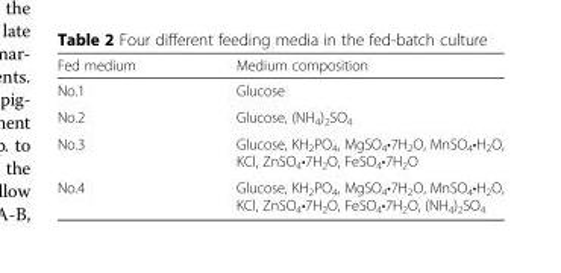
<table><thead><tr><td>Fed medium</td><td>Medium composition</td></tr></thead><tbody><tr><td>No.1</td><td>Glucose</td></tr><tr><td>No.2</td><td>Glucose, (NH<sub>4</sub>)<sub>2</sub>SO<sub>4</sub></td></tr><tr><td>No.3</td><td>Glucose, KH<sub>2</sub>PO<sub>4</sub>, MgSO<sub>4</sub>•7H<sub>2</sub>O, MnSO<sub>4</sub>•H<sub>2</sub>O, KCl, ZnSO<sub>4</sub>•7H<sub>2</sub>O, FeSO<sub>4</sub>•7H<sub>2</sub>O</td></tr><tr><td>No.4</td><td>Glucose, KH<sub>2</sub>PO<sub>4</sub>, MgSO<sub>4</sub>•7H<sub>2</sub>O, MnSO<sub>4</sub>•H<sub>2</sub>O, KCl, ZnSO<sub>4</sub>•7H<sub>2</sub>O, FeSO<sub>4</sub>•7H<sub>2</sub>O, (NH<sub>4</sub>)<sub>2</sub>SO<sub>4</sub></td></tr></tbody></table>